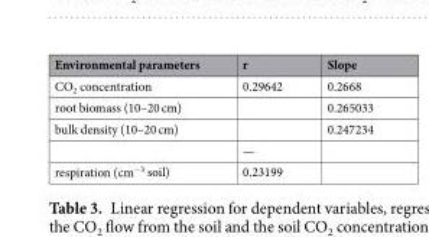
<table><thead><tr><td>Environmental parameters</td><td>r</td><td>Slope</td></tr></thead><tbody><tr><td>CO<sub>2</sub> concentration</td><td>0.29642</td><td>0.2668</td></tr><tr><td>root biomass (10–20 cm)</td><td></td><td>0.265033</td></tr><tr><td rowspan="2">bulk density (10–20 cm)</td><td></td><td>0.247234</td></tr><tr><td>—</td><td></td></tr><tr><td>respiration (cm<sup>−3</sup> soil)</td><td>0.23199</td><td></td></tr></tbody></table>